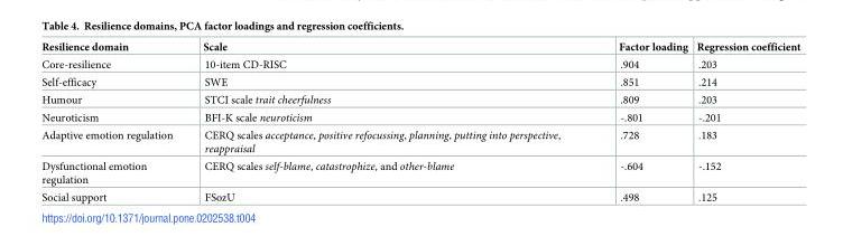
<table><thead><tr><td>Resilience domain</td><td>Scale</td><td>Factor loading</td><td>Regression coefficient</td></tr></thead><tbody><tr><td>Core-resilience</td><td>10-item CD-RISC</td><td>.904</td><td>.203</td></tr><tr><td>Self-efficacy</td><td>SWE</td><td>.851</td><td>.214</td></tr><tr><td>Humour</td><td>STCI scale trait cheerfulness</td><td>.809</td><td>.203</td></tr><tr><td>Neuroticism</td><td>BFI-K scale neuroticism</td><td>-.801</td><td>-.201</td></tr><tr><td>Adaptive emotion regulation</td><td>CERQ scales acceptance, positive refocussing, planning, putting into perspective, reappraisal</td><td>.728</td><td>.183</td></tr><tr><td>Dysfunctional emotion regulation</td><td>CERQ scales self-blame, catastrophize, and other-blame</td><td>-.604</td><td>-.152</td></tr><tr><td>Social support</td><td>FSozU</td><td>.498</td><td>.125</td></tr></tbody></table>